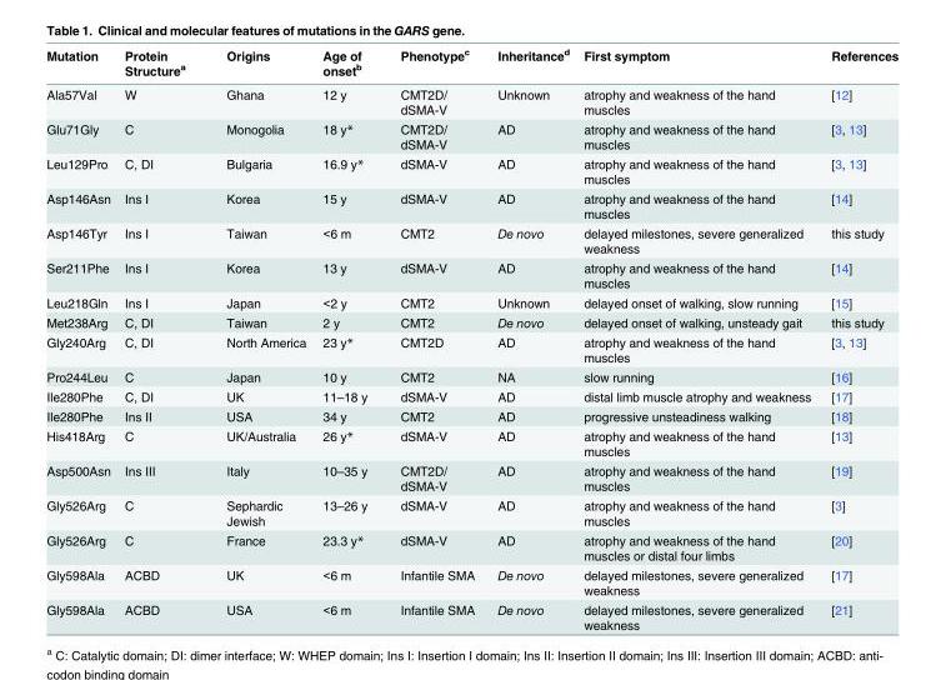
<table><thead><tr><td>Mutation</td><td>Protein Structure<sup>a</sup></td><td>Origins</td><td>Age of onset<sup>b</sup></td><td>Phenotype<sup>c</sup></td><td>Inheritance<sup>d</sup></td><td>First symptom</td><td>References</td></tr></thead><tbody><tr><td>Ala57Val</td><td>W</td><td>Ghana</td><td>12 y</td><td>CMT2D/ dSMA-V</td><td>Unknown</td><td>atrophy and weakness of the hand muscles</td><td>[12]</td></tr><tr><td>Glu71Gly</td><td>C</td><td>Monogolia</td><td>18 y*</td><td>CMT2D/ dSMA-V</td><td>AD</td><td>atrophy and weakness of the hand muscles</td><td>[3, 13]</td></tr><tr><td>Leu129Pro</td><td>C, DI</td><td>Bulgaria</td><td>16.9 y*</td><td>dSMA-V</td><td>AD</td><td>atrophy and weakness of the hand muscles</td><td>[3, 13]</td></tr><tr><td>Asp146Asn</td><td>Ins I</td><td>Korea</td><td>15 y</td><td>dSMA-V</td><td>AD</td><td>atrophy and weakness of the hand muscles</td><td>[14]</td></tr><tr><td>Asp146Tyr</td><td>Ins I</td><td>Taiwan</td><td>&lt;6 m</td><td>CMT2</td><td>De novo</td><td>delayed milestones, severe generalized weakness</td><td>this study</td></tr><tr><td>Ser211Phe</td><td>Ins I</td><td>Korea</td><td>13 y</td><td>dSMA-V</td><td>AD</td><td>atrophy and weakness of the hand muscles</td><td>[14]</td></tr><tr><td>Leu218Gln</td><td>Ins I</td><td>Japan</td><td>&lt;2 y</td><td>CMT2</td><td>Unknown</td><td>delayed onset of walking, slow running</td><td>[15]</td></tr><tr><td>Met238Arg</td><td>C, DI</td><td>Taiwan</td><td>2 y</td><td>CMT2</td><td>De novo</td><td>delayed onset of walking, unsteady gait</td><td>this study</td></tr><tr><td>Gly240Arg</td><td>C, DI</td><td>North America</td><td>23 y*</td><td>CMT2D</td><td>AD</td><td>atrophy and weakness of the hand muscles</td><td>[3, 13]</td></tr><tr><td>Pro244Leu</td><td>C</td><td>Japan</td><td>10 y</td><td>CMT2</td><td>NA</td><td>slow running</td><td>[16]</td></tr><tr><td>Ile280Phe</td><td>C, DI</td><td>UK</td><td>11–18 y</td><td>dSMA-V</td><td>AD</td><td>distal limb muscle atrophy and weakness</td><td>[17]</td></tr><tr><td>Ile280Phe</td><td>Ins II</td><td>USA</td><td>34 y</td><td>CMT2</td><td>AD</td><td>progressive unsteadiness walking</td><td>[18]</td></tr><tr><td>His418Arg</td><td>C</td><td>UK/Australia</td><td>26 y*</td><td>dSMA-V</td><td>AD</td><td>atrophy and weakness of the hand muscles</td><td>[13]</td></tr><tr><td>Asp500Asn</td><td>Ins III</td><td>Italy</td><td>10–35 y</td><td>CMT2D/ dSMA-V</td><td>AD</td><td>atrophy and weakness of the hand muscles</td><td>[19]</td></tr><tr><td>Gly526Arg</td><td>C</td><td>Sephardic Jewish</td><td>13–26 y</td><td>dSMA-V</td><td>AD</td><td>atrophy and weakness of the hand muscles</td><td>[3]</td></tr><tr><td>Gly526Arg</td><td>C</td><td>France</td><td>23.3 y*</td><td>dSMA-V</td><td>AD</td><td>atrophy and weakness of the hand muscles or distal four limbs</td><td>[20]</td></tr><tr><td>Gly598Ala</td><td>ACBD</td><td>UK</td><td>&lt;6 m</td><td>Infantile SMA</td><td>De novo</td><td>delayed milestones, severe generalized weakness</td><td>[17]</td></tr><tr><td>Gly598Ala</td><td>ACBD</td><td>USA</td><td>&lt;6 m</td><td>Infantile SMA</td><td>De novo</td><td>delayed milestones, severe generalized weakness</td><td>[21]</td></tr></tbody></table>